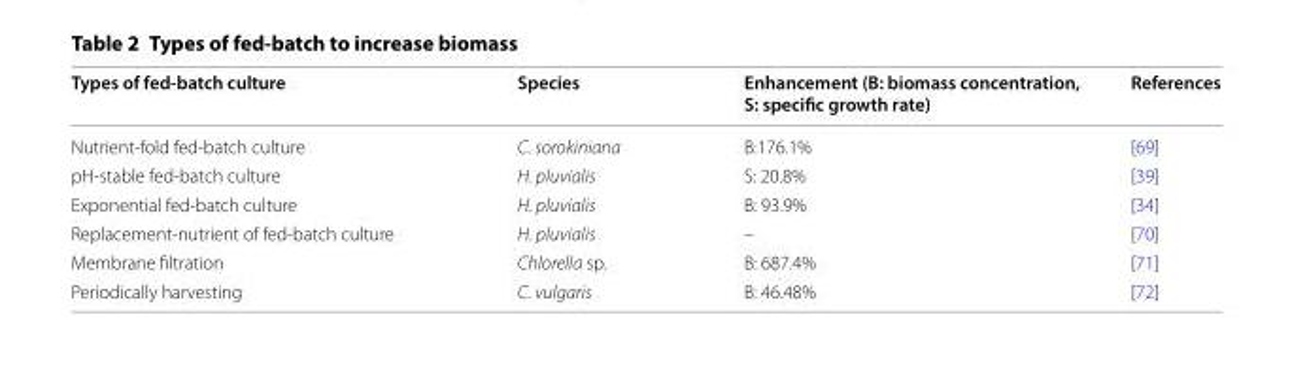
<table><thead><tr><td>Types of fed-batch culture</td><td>Species</td><td>Enhancement (B: biomass concentration, S: specific growth rate)</td><td>References</td></tr></thead><tbody><tr><td>Nutrient-fold fed-batch culture</td><td>C. sorokiniana</td><td>B:176.1%</td><td>[69]</td></tr><tr><td>pH-stable fed-batch culture</td><td>H. pluvialis</td><td>S: 20.8%</td><td>[39]</td></tr><tr><td>Exponential fed-batch culture</td><td>H. pluvialis</td><td>B: 93.9%</td><td>[34]</td></tr><tr><td>Replacement-nutrient of fed-batch culture</td><td>H. pluvialis</td><td>–</td><td>[70]</td></tr><tr><td>Membrane filtration</td><td>Chlorella sp.</td><td>B: 687.4%</td><td>[71]</td></tr><tr><td>Periodically harvesting</td><td>C. vulgaris</td><td>B: 46.48%</td><td>[72]</td></tr></tbody></table>